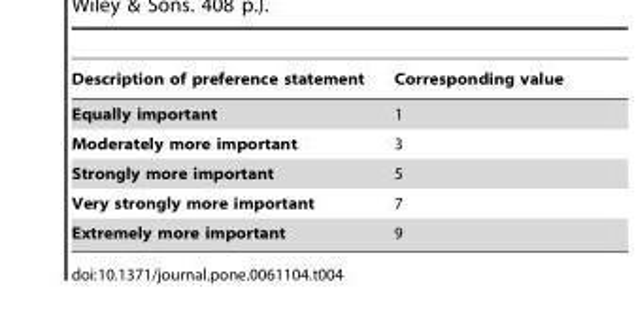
<table><thead><tr><td>Description of preference statement</td><td>Corresponding value</td></tr></thead><tbody><tr><td>Equally important</td><td>1</td></tr><tr><td>Moderately more important</td><td>3</td></tr><tr><td>Strongly more important</td><td>5</td></tr><tr><td>Very strongly more important</td><td>7</td></tr><tr><td>Extremely more important</td><td>9</td></tr></tbody></table>